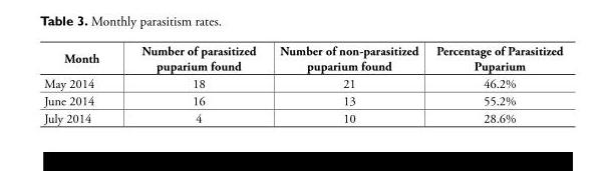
<table><thead><tr><td>Month</td><td>Number of parasitized puparium found</td><td>Number of non-parasitized puparium found</td><td>Percentage of Parasitized Puparium</td></tr></thead><tbody><tr><td>May 2014</td><td>18</td><td>21</td><td>46.2%</td></tr><tr><td>June 2014</td><td>16</td><td>13</td><td>55.2%</td></tr><tr><td>July 2014</td><td>4</td><td>10</td><td>28.6%</td></tr></tbody></table>